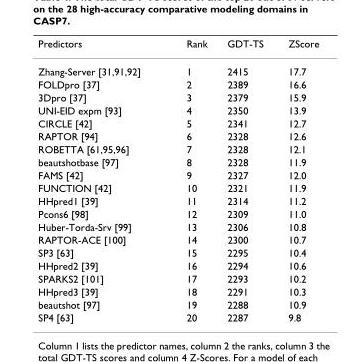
<table><thead><tr><td>Predictors</td><td>Rank</td><td>GDT-TS</td><td>ZScore</td></tr></thead><tbody><tr><td>Zhang-Server [31,91,92]</td><td>1</td><td>2415</td><td>17.7</td></tr><tr><td>FOLDpro [37]</td><td>2</td><td>2389</td><td>16.6</td></tr><tr><td>3Dpro [37]</td><td>3</td><td>2379</td><td>15.9</td></tr><tr><td>UNI-EID expm [93]</td><td>4</td><td>2350</td><td>13.9</td></tr><tr><td>CIRCLE [42]</td><td>5</td><td>2341</td><td>12.7</td></tr><tr><td>RAPTOR [94]</td><td>6</td><td>2328</td><td>12.6</td></tr><tr><td>ROBETTA [61,95,96]</td><td>7</td><td>2328</td><td>12.1</td></tr><tr><td>beautshotbase [97]</td><td>8</td><td>2328</td><td>11.9</td></tr><tr><td>FAMS [42]</td><td>9</td><td>2327</td><td>12.0</td></tr><tr><td>FUNCTION [42]</td><td>10</td><td>2321</td><td>11.9</td></tr><tr><td>HHpred1 [39]</td><td>11</td><td>2314</td><td>11.2</td></tr><tr><td>Pcons6 [98]</td><td>12</td><td>2309</td><td>11.0</td></tr><tr><td>Huber-Torda-Srv [99]</td><td>13</td><td>2306</td><td>10.8</td></tr><tr><td>RAPTOR-ACE [100]</td><td>14</td><td>2300</td><td>10.7</td></tr><tr><td>SP3 [63]</td><td>15</td><td>2295</td><td>10.4</td></tr><tr><td>HHpred2 [39]</td><td>16</td><td>2294</td><td>10.6</td></tr><tr><td>SPARKS2 [101]</td><td>17</td><td>2293</td><td>10.2</td></tr><tr><td>HHpred3 [39]</td><td>18</td><td>2291</td><td>10.3</td></tr><tr><td>beautshot [97]</td><td>19</td><td>2288</td><td>10.9</td></tr><tr><td>SP4 [63]</td><td>20</td><td>2287</td><td>9.8</td></tr></tbody></table>